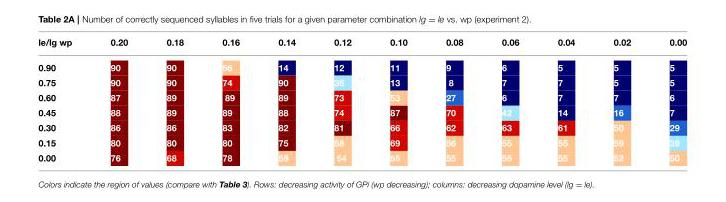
<table><thead><tr><td>le/lg wp</td><td>0.20</td><td>0.18</td><td>0.16</td><td>0.14</td><td>0.12</td><td>0.10</td><td>0.08</td><td>0.06</td><td>0.04</td><td>0.02</td><td>0.00</td></tr></thead><tbody><tr><td>0.90</td><td>90</td><td>90</td><td>56</td><td>14</td><td>12</td><td>11</td><td>9</td><td>6</td><td>5</td><td>5</td><td>5</td></tr><tr><td>0.75</td><td>90</td><td>90</td><td>74</td><td>90</td><td>36</td><td>13</td><td>8</td><td>7</td><td>7</td><td>5</td><td>5</td></tr><tr><td>0.60</td><td>87</td><td>89</td><td>89</td><td>89</td><td>73</td><td>53</td><td>27</td><td>6</td><td>7</td><td>7</td><td>6</td></tr><tr><td>0.45</td><td>88</td><td>89</td><td>89</td><td>88</td><td>74</td><td>87</td><td>70</td><td>42</td><td>14</td><td>16</td><td>7</td></tr><tr><td>0.30</td><td>86</td><td>86</td><td>83</td><td>82</td><td>81</td><td>66</td><td>62</td><td>63</td><td>61</td><td>50</td><td>29</td></tr><tr><td>0.15</td><td>80</td><td>80</td><td>80</td><td>75</td><td>58</td><td>69</td><td>56</td><td>55</td><td>55</td><td>59</td><td>39</td></tr><tr><td>0.00</td><td>76</td><td>68</td><td>78</td><td>58</td><td>54</td><td>55</td><td>55</td><td>55</td><td>55</td><td>52</td><td>50</td></tr></tbody></table>